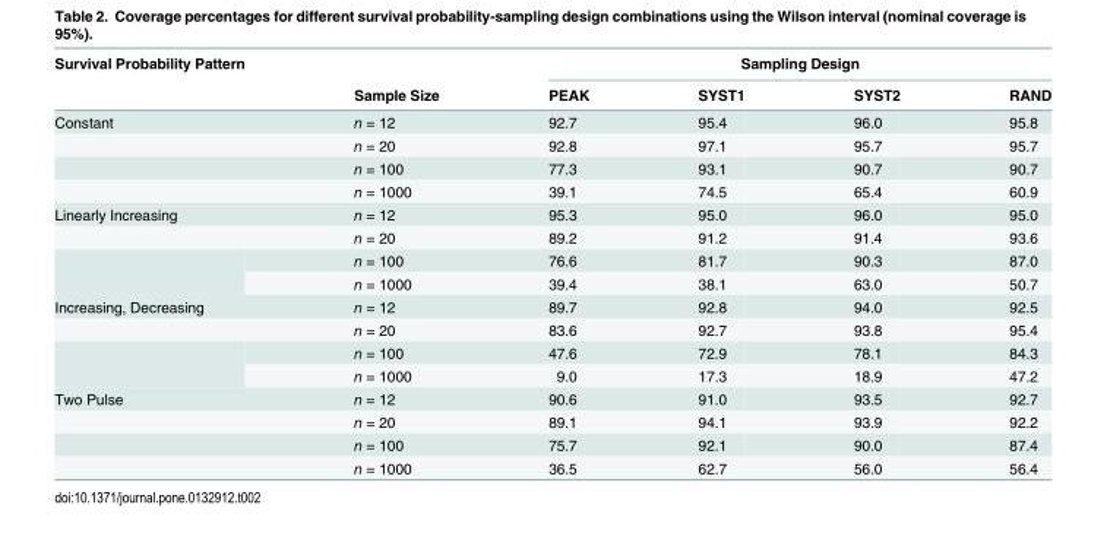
<table><thead><tr><td rowspan="2">Survival Probability Pattern</td><td rowspan="2">Sample Size</td><td colspan="4">Sampling Design</td></tr><tr><td>PEAK</td><td>SYST1</td><td>SYST2</td><td>RAND</td></tr></thead><tbody><tr><td rowspan="4">Constant</td><td>n = 12</td><td>92.7</td><td>95.4</td><td>96.0</td><td>95.8</td></tr><tr><td>n = 20</td><td>92.8</td><td>97.1</td><td>95.7</td><td>95.7</td></tr><tr><td>n = 100</td><td>77.3</td><td>93.1</td><td>90.7</td><td>90.7</td></tr><tr><td>n = 1000</td><td>39.1</td><td>74.5</td><td>65.4</td><td>60.9</td></tr><tr><td rowspan="4">Linearly Increasing</td><td>n = 12</td><td>95.3</td><td>95.0</td><td>96.0</td><td>95.0</td></tr><tr><td>n = 20</td><td>89.2</td><td>91.2</td><td>91.4</td><td>93.6</td></tr><tr><td>n = 100</td><td>76.6</td><td>81.7</td><td>90.3</td><td>87.0</td></tr><tr><td>n = 1000</td><td>39.4</td><td>38.1</td><td>63.0</td><td>50.7</td></tr><tr><td rowspan="4">Increasing, Decreasing</td><td>n = 12</td><td>89.7</td><td>92.8</td><td>94.0</td><td>92.5</td></tr><tr><td>n = 20</td><td>83.6</td><td>92.7</td><td>93.8</td><td>95.4</td></tr><tr><td>n = 100</td><td>47.6</td><td>72.9</td><td>78.1</td><td>84.3</td></tr><tr><td>n = 1000</td><td>9.0</td><td>17.3</td><td>18.9</td><td>47.2</td></tr><tr><td rowspan="4">Two Pulse</td><td>n = 12</td><td>90.6</td><td>91.0</td><td>93.5</td><td>92.7</td></tr><tr><td>n = 20</td><td>89.1</td><td>94.1</td><td>93.9</td><td>92.2</td></tr><tr><td>n = 100</td><td>75.7</td><td>92.1</td><td>90.0</td><td>87.4</td></tr><tr><td>n = 1000</td><td>36.5</td><td>62.7</td><td>56.0</td><td>56.4</td></tr></tbody></table>